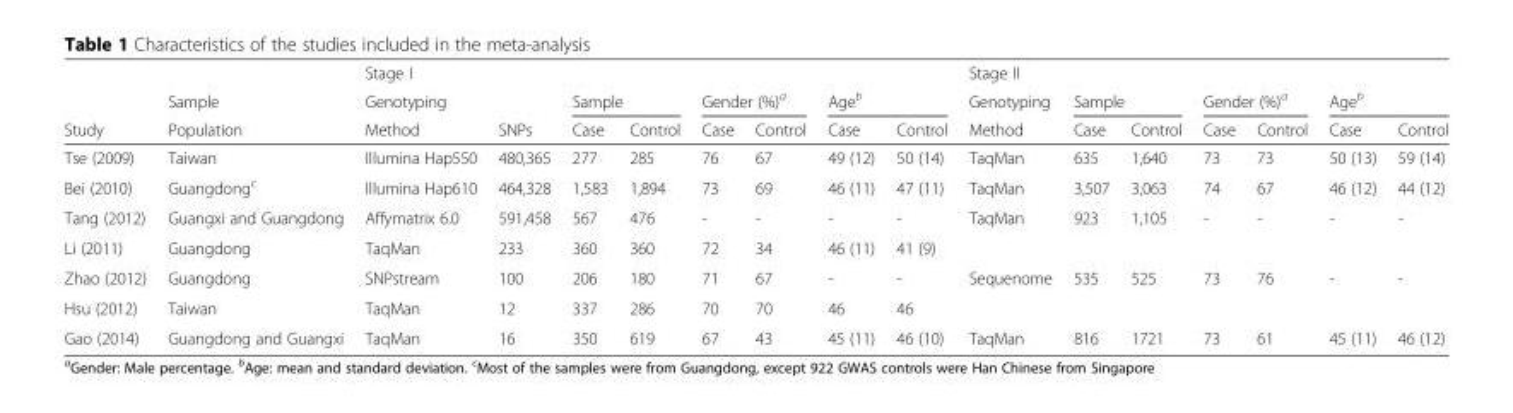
<table><thead><tr><td rowspan="3">Study</td><td rowspan="3">Sample Population</td><td rowspan="3">Stage I Genotyping Method</td><td rowspan="3">SNPs</td><td></td><td></td><td></td><td></td><td></td><td></td><td rowspan="3">Stage II Genotyping Method</td><td></td><td></td><td></td><td></td><td></td><td></td></tr><tr><td colspan="2">Sample</td><td colspan="2">Gender (%)<sup>a</sup></td><td colspan="2">Age<sup>b</sup></td><td colspan="2">Sample</td><td colspan="2">Gender (%)<sup>a</sup></td><td colspan="2">Age<sup>b</sup></td></tr><tr><td>Case</td><td>Control</td><td>Case</td><td>Control</td><td>Case</td><td>Control</td><td>Case</td><td>Control</td><td>Case</td><td>Control</td><td>Case</td><td>Control</td></tr></thead><tbody><tr><td>Tse (2009)</td><td>Taiwan</td><td>Illumina Hap550</td><td>480,365</td><td>277</td><td>285</td><td>76</td><td>67</td><td>49 (12)</td><td>50 (14)</td><td>TaqMan</td><td>635</td><td>1,640</td><td>73</td><td>73</td><td>50 (13)</td><td>59 (14)</td></tr><tr><td>Bei (2010)</td><td>Guangdong<sup>c</sup></td><td>Illumina Hap610</td><td>464,328</td><td>1,583</td><td>1,894</td><td>73</td><td>69</td><td>46 (11)</td><td>47 (11)</td><td>TaqMan</td><td>3,507</td><td>3,063</td><td>74</td><td>67</td><td>46 (12)</td><td>44 (12)</td></tr><tr><td>Tang (2012)</td><td>Guangxi and Guangdong</td><td>Affymatrix 6.0</td><td>591,458</td><td>567</td><td>476</td><td>-</td><td>-</td><td>-</td><td>-</td><td>TaqMan</td><td>923</td><td>1,105</td><td>-</td><td>-</td><td>-</td><td>-</td></tr><tr><td>Li (2011)</td><td>Guangdong</td><td>TaqMan</td><td>233</td><td>360</td><td>360</td><td>72</td><td>34</td><td>46 (11)</td><td>41 (9)</td><td></td><td></td><td></td><td></td><td></td><td></td><td></td></tr><tr><td>Zhao (2012)</td><td>Guangdong</td><td>SNPstream</td><td>100</td><td>206</td><td>180</td><td>71</td><td>67</td><td>-</td><td>-</td><td>Sequenome</td><td>535</td><td>525</td><td>73</td><td>76</td><td>-</td><td>-</td></tr><tr><td>Hsu (2012)</td><td>Taiwan</td><td>TaqMan</td><td>12</td><td>337</td><td>286</td><td>70</td><td>70</td><td>46</td><td>46</td><td></td><td></td><td></td><td></td><td></td><td></td><td></td></tr><tr><td>Gao (2014)</td><td>Guangdong and Guangxi</td><td>TaqMan</td><td>16</td><td>350</td><td>619</td><td>67</td><td>43</td><td>45 (11)</td><td>46 (10)</td><td>TaqMan</td><td>816</td><td>1721</td><td>73</td><td>61</td><td>45 (11)</td><td>46 (12)</td></tr></tbody></table>